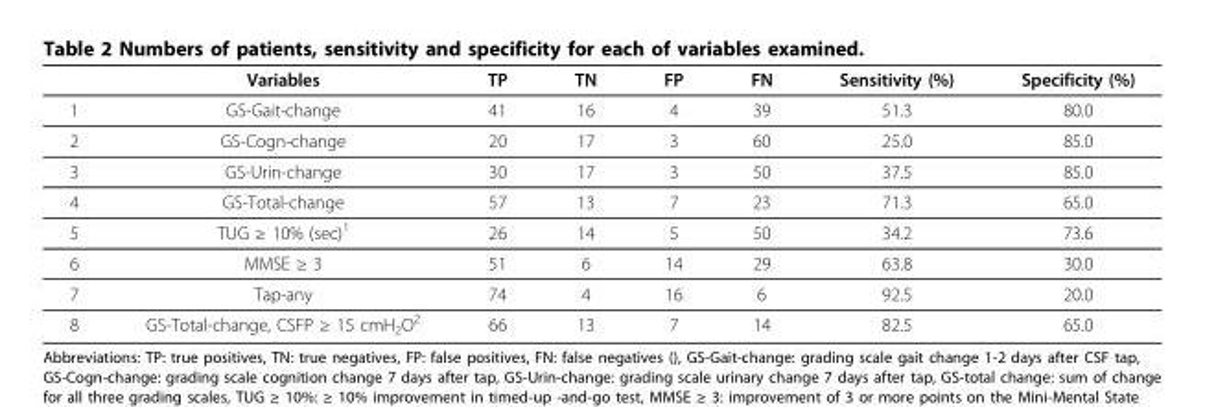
<table><thead><tr><td></td><td>Variables</td><td>TP</td><td>TN</td><td>FP</td><td>FN</td><td>Sensitivity (%)</td><td>Specificity (%)</td></tr></thead><tbody><tr><td>1</td><td>GS-Gait-change</td><td>41</td><td>16</td><td>4</td><td>39</td><td>51.3</td><td>80.0</td></tr><tr><td>2</td><td>GS-Cogn-change</td><td>20</td><td>17</td><td>3</td><td>60</td><td>25.0</td><td>85.0</td></tr><tr><td>3</td><td>GS-Urin-change</td><td>30</td><td>17</td><td>3</td><td>50</td><td>37.5</td><td>85.0</td></tr><tr><td>4</td><td>GS-Total-change</td><td>57</td><td>13</td><td>7</td><td>23</td><td>71.3</td><td>65.0</td></tr><tr><td>5</td><td>TUG ≥ 10% (sec)<sup>1</sup></td><td>26</td><td>14</td><td>5</td><td>50</td><td>34.2</td><td>73.6</td></tr><tr><td>6</td><td>MMSE ≥ 3</td><td>51</td><td>6</td><td>14</td><td>29</td><td>63.8</td><td>30.0</td></tr><tr><td>7</td><td>Tap-any</td><td>74</td><td>4</td><td>16</td><td>6</td><td>92.5</td><td>20.0</td></tr><tr><td>8</td><td>GS-Total-change, CSFP ≥ 15 cmH<sub>2</sub>O<sup>2</sup></td><td>66</td><td>13</td><td>7</td><td>14</td><td>82.5</td><td>65.0</td></tr></tbody></table>